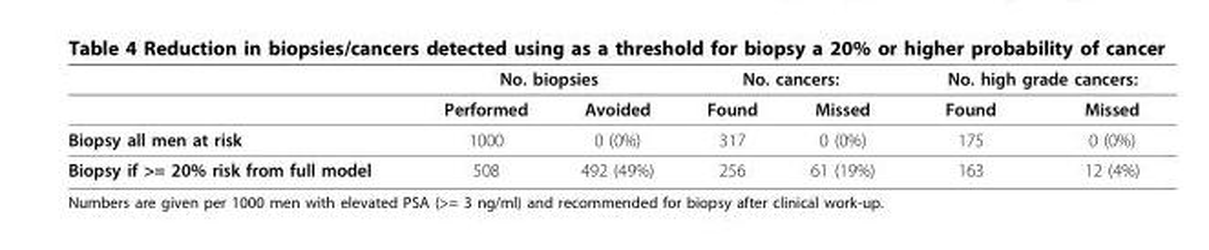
<table><thead><tr><td rowspan="2"></td><td colspan="2">No. biopsies</td><td colspan="2">No. cancers:</td><td colspan="2">No. high grade cancers:</td></tr><tr><td>Performed</td><td>Avoided</td><td>Found</td><td>Missed</td><td>Found</td><td>Missed</td></tr></thead><tbody><tr><td>Biopsy all men at risk</td><td>1000</td><td>0 (0%)</td><td>317</td><td>0 (0%)</td><td>175</td><td>0 (0%)</td></tr><tr><td>Biopsy if &gt;= 20% risk from full model</td><td>508</td><td>492 (49%)</td><td>256</td><td>61 (19%)</td><td>163</td><td>12 (4%)</td></tr></tbody></table>